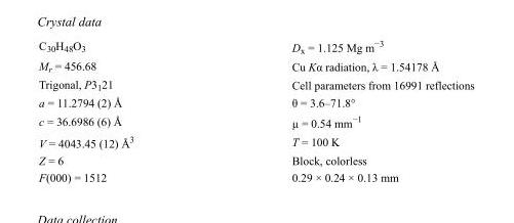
<table><tbody><tr><td>C<sub>30</sub>H<sub>48</sub>O<sub>3</sub></td><td>D<sub>x</sub> = 1.125 Mg m<sup>−3</sup></td></tr><tr><td>M<sub>r</sub> = 456.68</td><td>Cu Kα radiation, λ = 1.54178 Å</td></tr><tr><td>Trigonal, P3<sub>1</sub>21</td><td>Cell parameters from 16991 reflections</td></tr><tr><td>a = 11.2794 (2) Å</td><td>θ = 3.6–71.8°</td></tr><tr><td>c = 36.6986 (6) Å</td><td>µ = 0.54 mm<sup>−1</sup></td></tr><tr><td>V = 4043.45 (12) Å<sup>3</sup></td><td>T = 100 K</td></tr><tr><td>Z = 6</td><td>Block, colorless</td></tr><tr><td>F(000) = 1512</td><td>0.29 × 0.24 × 0.13 mm</td></tr></tbody></table>